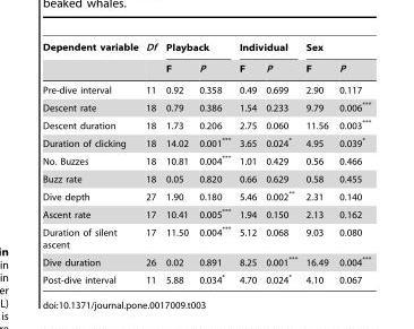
<table><thead><tr><td rowspan="2">Dependent variable</td><td rowspan="2">Df</td><td colspan="2">Playback</td><td colspan="2">Individual</td><td colspan="2">Sex</td></tr><tr><td>F</td><td>P</td><td>F</td><td>P</td><td>F</td><td>P</td></tr></thead><tbody><tr><td>Pre-dive interval</td><td>11</td><td>0.92</td><td>0.358</td><td>0.49</td><td>0.699</td><td>2.90</td><td>0.117</td></tr><tr><td>Descent rate</td><td>18</td><td>0.79</td><td>0.386</td><td>1.54</td><td>0.233</td><td>9.79</td><td>0.006***</td></tr><tr><td>Descent duration</td><td>18</td><td>1.73</td><td>0.206</td><td>2.75</td><td>0.060</td><td>11.56</td><td>0.003***</td></tr><tr><td>Duration of clicking</td><td>18</td><td>14.02</td><td>0.001***</td><td>3.65</td><td>0.024*</td><td>4.95</td><td>0.039*</td></tr><tr><td>No. Buzzes</td><td>18</td><td>10.81</td><td>0.004***</td><td>1.01</td><td>0.429</td><td>0.56</td><td>0.466</td></tr><tr><td>Buzz rate</td><td>18</td><td>0.05</td><td>0.820</td><td>0.66</td><td>0.629</td><td>0.58</td><td>0.455</td></tr><tr><td>Dive depth</td><td>27</td><td>1.90</td><td>0.180</td><td>5.46</td><td>0.002**</td><td>2.31</td><td>0.140</td></tr><tr><td>Ascent rate</td><td>17</td><td>10.41</td><td>0.005***</td><td>1.94</td><td>0.150</td><td>2.13</td><td>0.162</td></tr><tr><td>Duration of silent ascent</td><td>17</td><td>11.50</td><td>0.004***</td><td>5.12</td><td>0.068</td><td>9.03</td><td>0.080</td></tr><tr><td>Dive duration</td><td>26</td><td>0.02</td><td>0.891</td><td>8.25</td><td>0.001***</td><td>16.49</td><td>0.004***</td></tr><tr><td>Post-dive interval</td><td>11</td><td>5.88</td><td>0.034*</td><td>4.70</td><td>0.024*</td><td>4.10</td><td>0.067</td></tr></tbody></table>